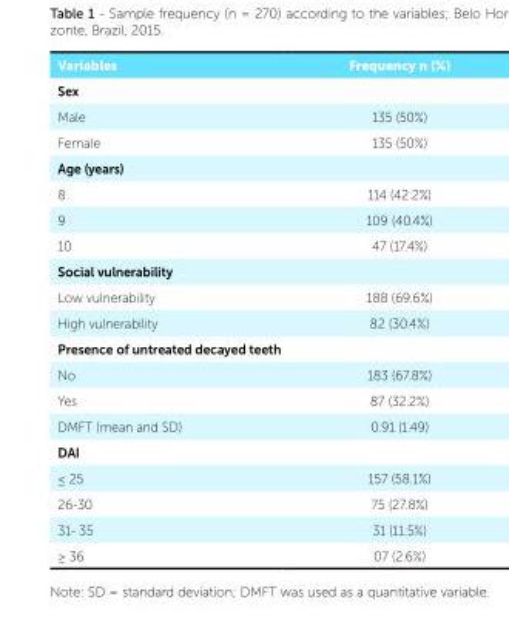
<table><tbody><tr><td>Variables</td><td>Frequency n (%)</td></tr><tr><td colspan="2">Sex</td></tr><tr><td>Male</td><td>135 (50%)</td></tr><tr><td>Female</td><td>135 (50%)</td></tr><tr><td colspan="2">Age (years)</td></tr><tr><td>8</td><td>114 (42.2%)</td></tr><tr><td>9</td><td>109 (40.4%)</td></tr><tr><td>10</td><td>47 (17.4%)</td></tr><tr><td colspan="2">Social vulnerability</td></tr><tr><td>Low vulnerability</td><td>188 (69.6%)</td></tr><tr><td>High vulnerability</td><td>82 (30.4%)</td></tr><tr><td colspan="2">Presence of untreated decayed teeth</td></tr><tr><td>No</td><td>183 (67.8%)</td></tr><tr><td>Yes</td><td>87 (32.2%)</td></tr><tr><td>DMFT (mean and SD)</td><td>0.91 (1.49)</td></tr><tr><td colspan="2">DAI</td></tr><tr><td>≤ 25</td><td>157 (58.1%)</td></tr><tr><td>26-30</td><td>75 (27.8%)</td></tr><tr><td>31- 35</td><td>31 (11.5%)</td></tr><tr><td>≥ 36</td><td>07 (2.6%)</td></tr></tbody></table>